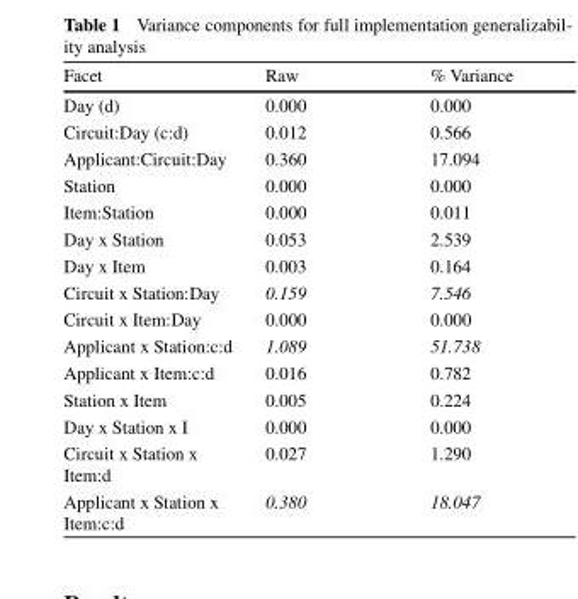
<table><thead><tr><td>Facet</td><td>Raw</td><td>% Variance</td></tr></thead><tbody><tr><td>Day (d)</td><td>0.000</td><td>0.000</td></tr><tr><td>Circuit:Day (c:d)</td><td>0.012</td><td>0.566</td></tr><tr><td>Applicant:Circuit:Day</td><td>0.360</td><td>17.094</td></tr><tr><td>Station</td><td>0.000</td><td>0.000</td></tr><tr><td>Item:Station</td><td>0.000</td><td>0.011</td></tr><tr><td>Day x Station</td><td>0.053</td><td>2.539</td></tr><tr><td>Day x Item</td><td>0.003</td><td>0.164</td></tr><tr><td>Circuit x Station:Day</td><td>0.159</td><td>7.546</td></tr><tr><td>Circuit x Item:Day</td><td>0.000</td><td>0.000</td></tr><tr><td>Applicant x Station:c:d</td><td>1.089</td><td>51.738</td></tr><tr><td>Applicant x Item:c:d</td><td>0.016</td><td>0.782</td></tr><tr><td>Station x Item</td><td>0.005</td><td>0.224</td></tr><tr><td>Day x Station x I</td><td>0.000</td><td>0.000</td></tr><tr><td>Circuit x Station x Item:d</td><td>0.027</td><td>1.290</td></tr><tr><td>Applicant x Station x Item:c:d</td><td>0.380</td><td>18.047</td></tr></tbody></table>